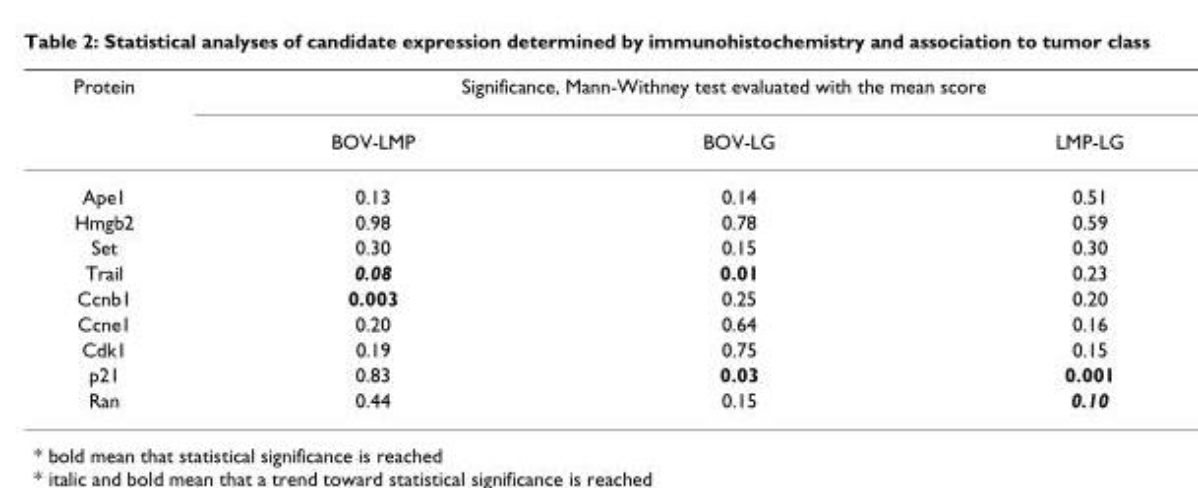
<table><thead><tr><td rowspan="2">Protein</td><td colspan="3">Significance, Mann-Withney test evaluated with the mean score</td></tr><tr><td>BOV-LMP</td><td>BOV-LG</td><td>LMP-LG</td></tr></thead><tbody><tr><td>Ape1</td><td>0.13</td><td>0.14</td><td>0.51</td></tr><tr><td>Hmgb2</td><td>0.98</td><td>0.78</td><td>0.59</td></tr><tr><td>Set</td><td>0.30</td><td>0.15</td><td>0.30</td></tr><tr><td>Trail</td><td>0.08</td><td>0.01</td><td>0.23</td></tr><tr><td>Ccnb1</td><td>0.003</td><td>0.25</td><td>0.20</td></tr><tr><td>Ccne1</td><td>0.20</td><td>0.64</td><td>0.16</td></tr><tr><td>Cdk1</td><td>0.19</td><td>0.75</td><td>0.15</td></tr><tr><td>p21</td><td>0.83</td><td>0.03</td><td>0.001</td></tr><tr><td>Ran</td><td>0.44</td><td>0.15</td><td>0.10</td></tr></tbody></table>